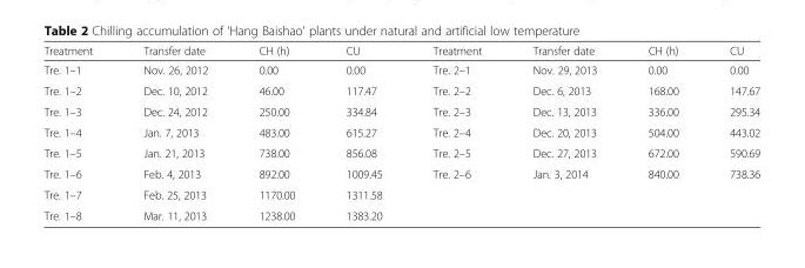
<table><thead><tr><td>Treatment</td><td>Transfer date</td><td>CH (h)</td><td>CU</td><td>Treatment</td><td>Transfer date</td><td>CH (h)</td><td>CU</td></tr></thead><tbody><tr><td>Tre. 1–1</td><td>Nov. 26, 2012</td><td>0.00</td><td>0.00</td><td>Tre. 2–1</td><td>Nov. 29, 2013</td><td>0.00</td><td>0.00</td></tr><tr><td>Tre. 1–2</td><td>Dec. 10, 2012</td><td>46.00</td><td>117.47</td><td>Tre. 2–2</td><td>Dec. 6, 2013</td><td>168.00</td><td>147.67</td></tr><tr><td>Tre. 1–3</td><td>Dec. 24, 2012</td><td>250.00</td><td>334.84</td><td>Tre. 2–3</td><td>Dec. 13, 2013</td><td>336.00</td><td>295.34</td></tr><tr><td>Tre. 1–4</td><td>Jan. 7, 2013</td><td>483.00</td><td>615.27</td><td>Tre. 2–4</td><td>Dec. 20, 2013</td><td>504.00</td><td>443.02</td></tr><tr><td>Tre. 1–5</td><td>Jan. 21, 2013</td><td>738.00</td><td>856.08</td><td>Tre. 2–5</td><td>Dec. 27, 2013</td><td>672.00</td><td>590.69</td></tr><tr><td>Tre. 1–6</td><td>Feb. 4, 2013</td><td>892.00</td><td>1009.45</td><td>Tre. 2–6</td><td>Jan. 3, 2014</td><td>840.00</td><td>738.36</td></tr><tr><td>Tre. 1–7</td><td>Feb. 25, 2013</td><td>1170.00</td><td>1311.58</td><td></td><td></td><td></td><td></td></tr><tr><td>Tre. 1–8</td><td>Mar. 11, 2013</td><td>1238.00</td><td>1383.20</td><td></td><td></td><td></td><td></td></tr></tbody></table>